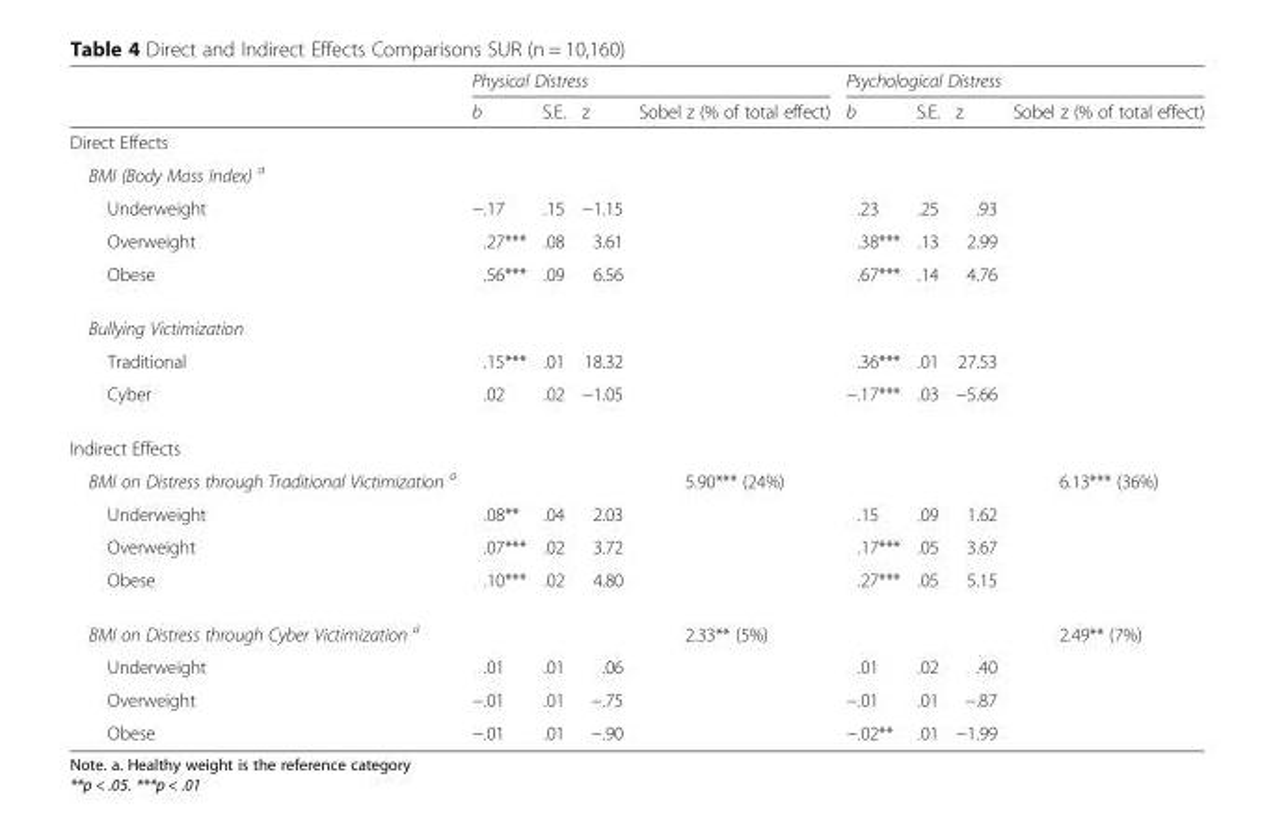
<table><thead><tr><td rowspan="2"></td><td colspan="4">Physical Distress</td><td colspan="4">Psychological Distress</td></tr><tr><td>b</td><td>S.E.</td><td>z</td><td>Sobel z (% of total effect)</td><td>b</td><td>S.E.</td><td>z</td><td>Sobel z (% of total effect)</td></tr></thead><tbody><tr><td colspan="9">Direct Effects</td></tr><tr><td colspan="9">BMI (Body Mass Index) <sup>a</sup></td></tr><tr><td>Underweight</td><td>−.17</td><td>.15</td><td>−1.15</td><td></td><td>.23</td><td>.25</td><td>.93</td><td></td></tr><tr><td>Overweight</td><td>.27***</td><td>.08</td><td>3.61</td><td></td><td>.38***</td><td>.13</td><td>2.99</td><td></td></tr><tr><td>Obese</td><td>.56***</td><td>.09</td><td>6.56</td><td></td><td>.67***</td><td>.14</td><td>4.76</td><td></td></tr><tr><td colspan="9">Bullying Victimization</td></tr><tr><td>Traditional</td><td>.15***</td><td>.01</td><td>18.32</td><td></td><td>.36***</td><td>.01</td><td>27.53</td><td></td></tr><tr><td>Cyber</td><td>.02</td><td>.02</td><td>−1.05</td><td></td><td>−.17***</td><td>.03</td><td>−5.66</td><td></td></tr><tr><td colspan="9">Indirect Effects</td></tr><tr><td>BMI on Distress through Traditional Victimization <sup>a</sup></td><td colspan="3"></td><td>5.90*** (24%)</td><td colspan="3"></td><td>6.13*** (36%)</td></tr><tr><td>Underweight</td><td>.08**</td><td>.04</td><td>2.03</td><td></td><td>.15</td><td>.09</td><td>1.62</td><td></td></tr><tr><td>Overweight</td><td>.07***</td><td>.02</td><td>3.72</td><td></td><td>.17***</td><td>.05</td><td>3.67</td><td></td></tr><tr><td>Obese</td><td>.10***</td><td>.02</td><td>4.80</td><td></td><td>.27***</td><td>.05</td><td>5.15</td><td></td></tr><tr><td>BMI on Distress through Cyber Victimization <sup>a</sup></td><td colspan="3"></td><td>2.33** (5%)</td><td colspan="3"></td><td>2.49** (7%)</td></tr><tr><td>Underweight</td><td>.01</td><td>.01</td><td>.06</td><td></td><td>.01</td><td>.02</td><td>.40</td><td></td></tr><tr><td>Overweight</td><td>−.01</td><td>.01</td><td>−.75</td><td></td><td>−.01</td><td>.01</td><td>−.87</td><td></td></tr><tr><td>Obese</td><td>−.01</td><td>.01</td><td>−.90</td><td></td><td>−.02**</td><td>.01</td><td>−1.99</td><td></td></tr></tbody></table>